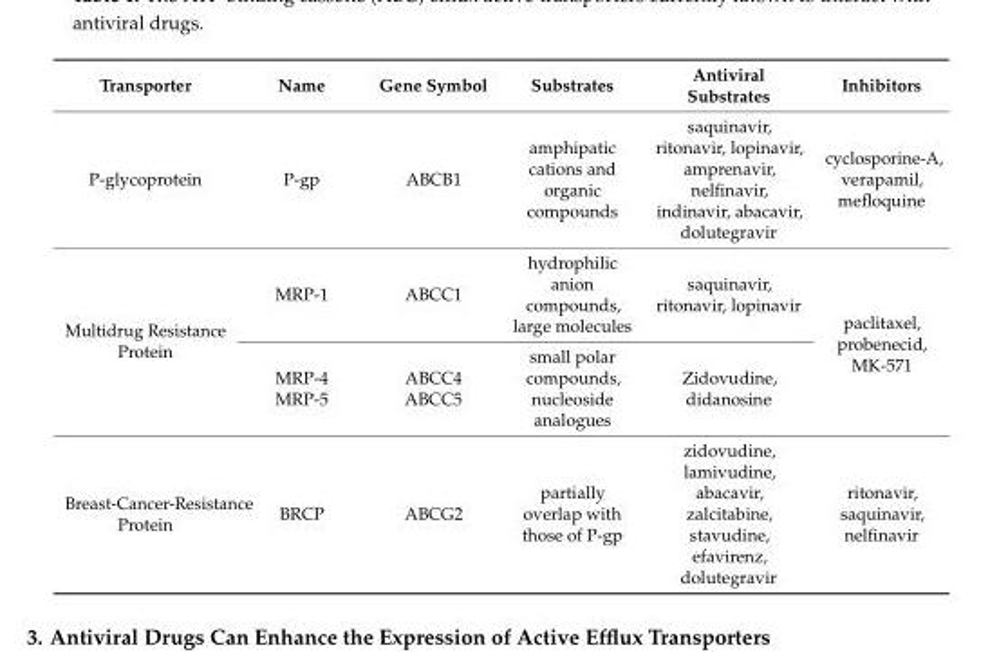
<table><thead><tr><td>Transporter</td><td>Name</td><td>Gene Symbol</td><td>Substrates</td><td>Antiviral Substrates</td><td>Inhibitors</td></tr></thead><tbody><tr><td>P-glycoprotein</td><td>P-gp</td><td>ABCB1</td><td>amphipatic cations and organic compounds</td><td>saquinavir, ritonavir, lopinavir, amprenavir, nelfinavir, indinavir, abacavir, dolutegravir</td><td>cyclosporine-A, verapamil, mefloquine</td></tr><tr><td rowspan="2">Multidrug Resistance Protein</td><td>MRP-1</td><td>ABCC1</td><td>hydrophilic anion compounds, large molecules</td><td>saquinavir, ritonavir, lopinavir</td><td rowspan="2">paclitaxel, probenecid, MK-571</td></tr><tr><td>MRP-4 MRP-5</td><td>ABCC4 ABCC5</td><td>small polar compounds, nucleoside analogues</td><td>Zidovudine, didanosine</td></tr><tr><td>Breast-Cancer-Resistance Protein</td><td>BRCP</td><td>ABCG2</td><td>partially overlap with those of P-gp</td><td>zidovudine, lamivudine, abacavir, zalcitabine, stavudine, efavirenz, dolutegravir</td><td>ritonavir, saquinavir, nelfinavir</td></tr></tbody></table>